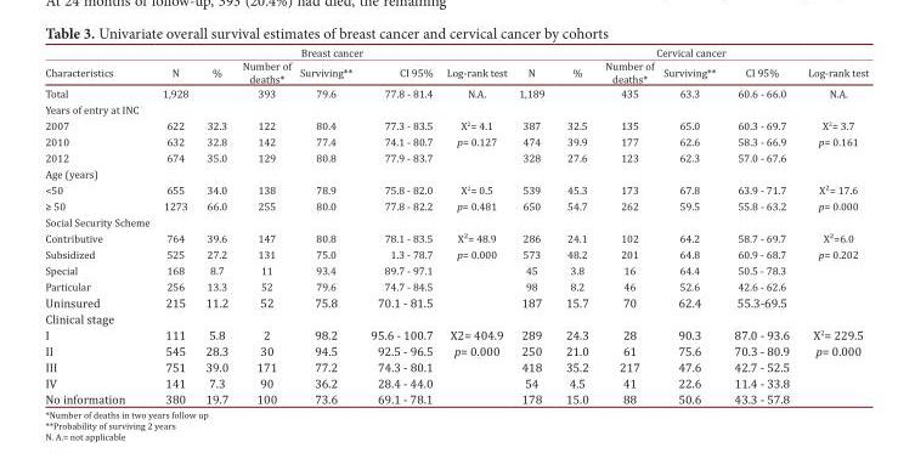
<table><thead><tr><td rowspan="2">Characteristics</td><td colspan="6">Breast cancer</td><td colspan="6">Cervical cancer</td></tr><tr><td>N</td><td>%</td><td>Number of deaths*</td><td>Surviving**</td><td>CI 95%</td><td>Log-rank test</td><td>N</td><td>%</td><td>Number of deaths*</td><td>Surviving**</td><td>CI 95%</td><td>Log-rank test</td></tr></thead><tbody><tr><td>Total</td><td>1,928</td><td></td><td>393</td><td>79.6</td><td>77.8 - 81.4</td><td>N.A.</td><td>1,189</td><td></td><td>435</td><td>63.3</td><td>60.6 - 66.0</td><td>N.A.</td></tr><tr><td colspan="13">Years of entry at INC</td></tr><tr><td>2007</td><td>622</td><td>32.3</td><td>122</td><td>80.4</td><td>77.3 - 83.5</td><td>X<sup>2</sup>= 4.1</td><td>387</td><td>32.5</td><td>135</td><td>65.0</td><td>60.3 - 69.7</td><td>X<sup>2</sup>= 3.7</td></tr><tr><td>2010</td><td>632</td><td>32.8</td><td>142</td><td>77.4</td><td>74.1 - 80.7</td><td>p= 0.127</td><td>474</td><td>39.9</td><td>177</td><td>62.6</td><td>58.3 - 66.9</td><td>p= 0.161</td></tr><tr><td>2012</td><td>674</td><td>35.0</td><td>129</td><td>80.8</td><td>77.9 - 83.7</td><td></td><td>328</td><td>27.6</td><td>123</td><td>62.3</td><td>57.0 - 67.6</td><td></td></tr><tr><td colspan="13">Age (years)</td></tr><tr><td>&lt;50</td><td>655</td><td>34.0</td><td>138</td><td>78.9</td><td>75.8 - 82.0</td><td>X<sup>2</sup>= 0.5</td><td>539</td><td>45.3</td><td>173</td><td>67.8</td><td>63.9 - 71.7</td><td>X²= 17.6</td></tr><tr><td>≥ 50</td><td>1273</td><td>66.0</td><td>255</td><td>80.0</td><td>77.8 - 82.2</td><td>p= 0.481</td><td>650</td><td>54.7</td><td>262</td><td>59.5</td><td>55.8 - 63.2</td><td>p= 0.000</td></tr><tr><td colspan="13">Social Security Scheme</td></tr><tr><td>Contributive</td><td>764</td><td>39.6</td><td>147</td><td>80.8</td><td>78.1 - 83.5</td><td>X²= 48.9</td><td>286</td><td>24.1</td><td>102</td><td>64.2</td><td>58.7 - 69.7</td><td>X²=6.0</td></tr><tr><td>Subsidized</td><td>525</td><td>27.2</td><td>131</td><td>75.0</td><td>1.3 - 78.7</td><td>p= 0.000</td><td>573</td><td>48.2</td><td>201</td><td>64.8</td><td>60.9 - 68.7</td><td>p= 0.202</td></tr><tr><td>Special</td><td>168</td><td>8.7</td><td>11</td><td>93.4</td><td>89.7 - 97.1</td><td></td><td>45</td><td>3.8</td><td>16</td><td>64.4</td><td>50.5 - 78.3</td><td></td></tr><tr><td>Particular</td><td>256</td><td>13.3</td><td>52</td><td>79.6</td><td>74.7 - 84.5</td><td></td><td>98</td><td>8.2</td><td>46</td><td>52.6</td><td>42.6 - 62.6</td><td></td></tr><tr><td>Uninsured</td><td>215</td><td>11.2</td><td>52</td><td>75.8</td><td>70.1 - 81.5</td><td></td><td>187</td><td>15.7</td><td>70</td><td>62.4</td><td>55.3-69.5</td><td></td></tr><tr><td colspan="13">Clinical stage</td></tr><tr><td>I</td><td>111</td><td>5.8</td><td>2</td><td>98.2</td><td>95.6 - 100.7</td><td>X<sup>2</sup>= 404.9</td><td>289</td><td>24.3</td><td>28</td><td>90.3</td><td>87.0 - 93.6</td><td>X<sup>2</sup>= 229.5</td></tr><tr><td>II</td><td>545</td><td>28.3</td><td>30</td><td>94.5</td><td>92.5 - 96.5</td><td>p= 0.000</td><td>250</td><td>21.0</td><td>61</td><td>75.6</td><td>70.3 - 80.9</td><td>p= 0.000</td></tr><tr><td>III</td><td>751</td><td>39.0</td><td>171</td><td>77.2</td><td>74.3 - 80.1</td><td></td><td>418</td><td>35.2</td><td>217</td><td>47.6</td><td>42.7 - 52.5</td><td></td></tr><tr><td>IV</td><td>141</td><td>7.3</td><td>90</td><td>36.2</td><td>28.4 - 44.0</td><td></td><td>54</td><td>4.5</td><td>41</td><td>22.6</td><td>11.4 - 33.8</td><td></td></tr><tr><td>No information</td><td>380</td><td>19.7</td><td>100</td><td>73.6</td><td>69.1 - 78.1</td><td></td><td>178</td><td>15.0</td><td>88</td><td>50.6</td><td>43.3 - 57.8</td><td></td></tr></tbody></table>